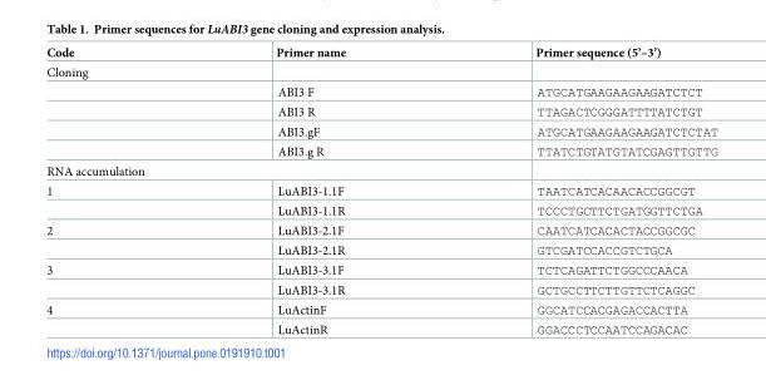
<table><thead><tr><td>Code</td><td>Primer name</td><td>Primer sequence (5’–3’)</td></tr></thead><tbody><tr><td colspan="3">Cloning</td></tr><tr><td></td><td>ABI3 F</td><td>ATGCATGAAGAAGAAGATCTCT</td></tr><tr><td></td><td>ABI3 R</td><td>TTAGACTCGGGATTTTATCTGT</td></tr><tr><td></td><td>ABI3.gF</td><td>ATGCATGAAGAAGAAGATCTCTAT</td></tr><tr><td></td><td>ABI3.g R</td><td>TTATCTGTATGTATCGAGTTGTTG</td></tr><tr><td colspan="3">RNA accumulation</td></tr><tr><td rowspan="2">1</td><td>LuABI3-1.1F</td><td>TAATCATCACAACACCGGCGT</td></tr><tr><td>LuABI3-1.1R</td><td>TCCCTGCTTCTGATGGTTCTGA</td></tr><tr><td rowspan="2">2</td><td>LuABI3-2.1F</td><td>CAATCATCACACTACCGGCGC</td></tr><tr><td>LuABI3-2.1R</td><td>GTCGATCCACCGTCTGCA</td></tr><tr><td rowspan="2">3</td><td>LuABI3-3.1F</td><td>TCTCAGATTCTGGCCCAACA</td></tr><tr><td>LuABI3-3.1R</td><td>GCTGCCTTCTTGTTCTCAGGC</td></tr><tr><td rowspan="2">4</td><td>LuActinF</td><td>GGCATCCACGAGACCACTTA</td></tr><tr><td>LuActinR</td><td>GGACCCTCCAATCCAGACAC</td></tr></tbody></table>